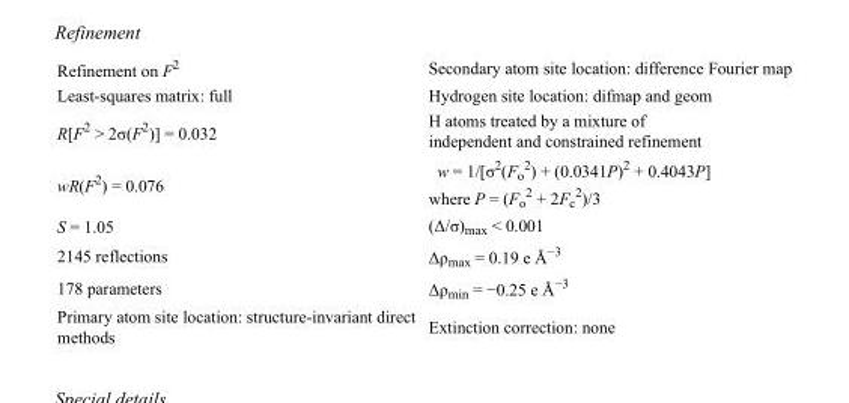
<table><tbody><tr><td>Refinement on F<sup>2</sup></td><td>Secondary atom site location: difference Fourier map</td></tr><tr><td>Least-squares matrix: full</td><td>Hydrogen site location: difmap and geom</td></tr><tr><td>R[F<sup>2</sup> &gt; 2σ(F<sup>2</sup>)] = 0.032</td><td>H atoms treated by a mixture of independent and constrained refinement</td></tr><tr><td>wR(F<sup>2</sup>) = 0.076</td><td>w = 1/[σ<sup>2</sup>(F<sub>o</sub> <sup>2</sup>) + (0.0341P)<sup>2</sup> + 0.4043P] where P = (F<sub>o</sub> <sup>2</sup> + 2F<sub>c</sub> <sup>2</sup>)/3</td></tr><tr><td>S = 1.05</td><td>(Δ/σ)<sub>max</sub> &lt; 0.001</td></tr><tr><td>2145 reflections</td><td>Δρ<sub>max</sub> = 0.19 e Å<sup>−3</sup></td></tr><tr><td>178 parameters</td><td>Δρ<sub>min</sub> = −0.25 e Å<sup>−3</sup></td></tr><tr><td>Primary atom site location: structure-invariant direct methods</td><td>Extinction correction: none</td></tr></tbody></table>